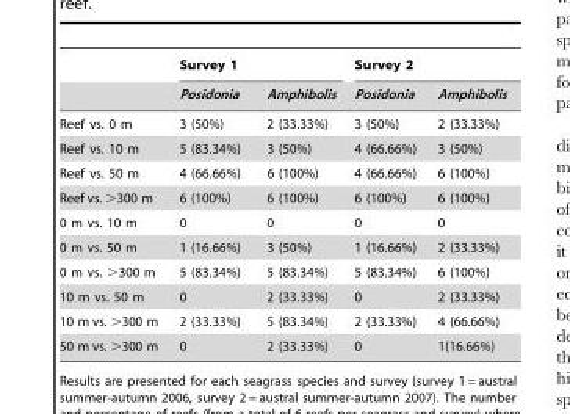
<table><thead><tr><td rowspan="2"></td><td colspan="2">Survey 1</td><td colspan="2">Survey 2</td></tr><tr><td>Posidonia</td><td>Amphibolis</td><td>Posidonia</td><td>Amphibolis</td></tr></thead><tbody><tr><td>Reef vs. 0 m</td><td>3 (50%)</td><td>2 (33.33%)</td><td>3 (50%)</td><td>2 (33.33%)</td></tr><tr><td>Reef vs. 10 m</td><td>5 (83.34%)</td><td>3 (50%)</td><td>4 (66.66%)</td><td>3 (50%)</td></tr><tr><td>Reef vs. 50 m</td><td>4 (66.66%)</td><td>6 (100%)</td><td>4 (66.66%)</td><td>6 (100%)</td></tr><tr><td>Reef vs. &gt;300 m</td><td>6 (100%)</td><td>6 (100%)</td><td>6 (100%)</td><td>6 (100%)</td></tr><tr><td>0 m vs. 10 m</td><td>0</td><td>0</td><td>0</td><td>0</td></tr><tr><td>0 m vs. 50 m</td><td>1 (16.66%)</td><td>3 (50%)</td><td>1 (16.66%)</td><td>2 (33.33%)</td></tr><tr><td>0 m vs. &gt;300 m</td><td>5 (83.34%)</td><td>5 (83.34%)</td><td>5 (83.34%)</td><td>6 (100%)</td></tr><tr><td>10 m vs. 50 m</td><td>0</td><td>2 (33.33%)</td><td>0</td><td>2 (33.33%)</td></tr><tr><td>10 m vs. &gt;300 m</td><td>2 (33.33%)</td><td>5 (83.34%)</td><td>2 (33.33%)</td><td>4 (66.66%)</td></tr><tr><td>50 m vs. &gt;300 m</td><td>0</td><td>2 (33.33%)</td><td>0</td><td>1(16.66%)</td></tr></tbody></table>